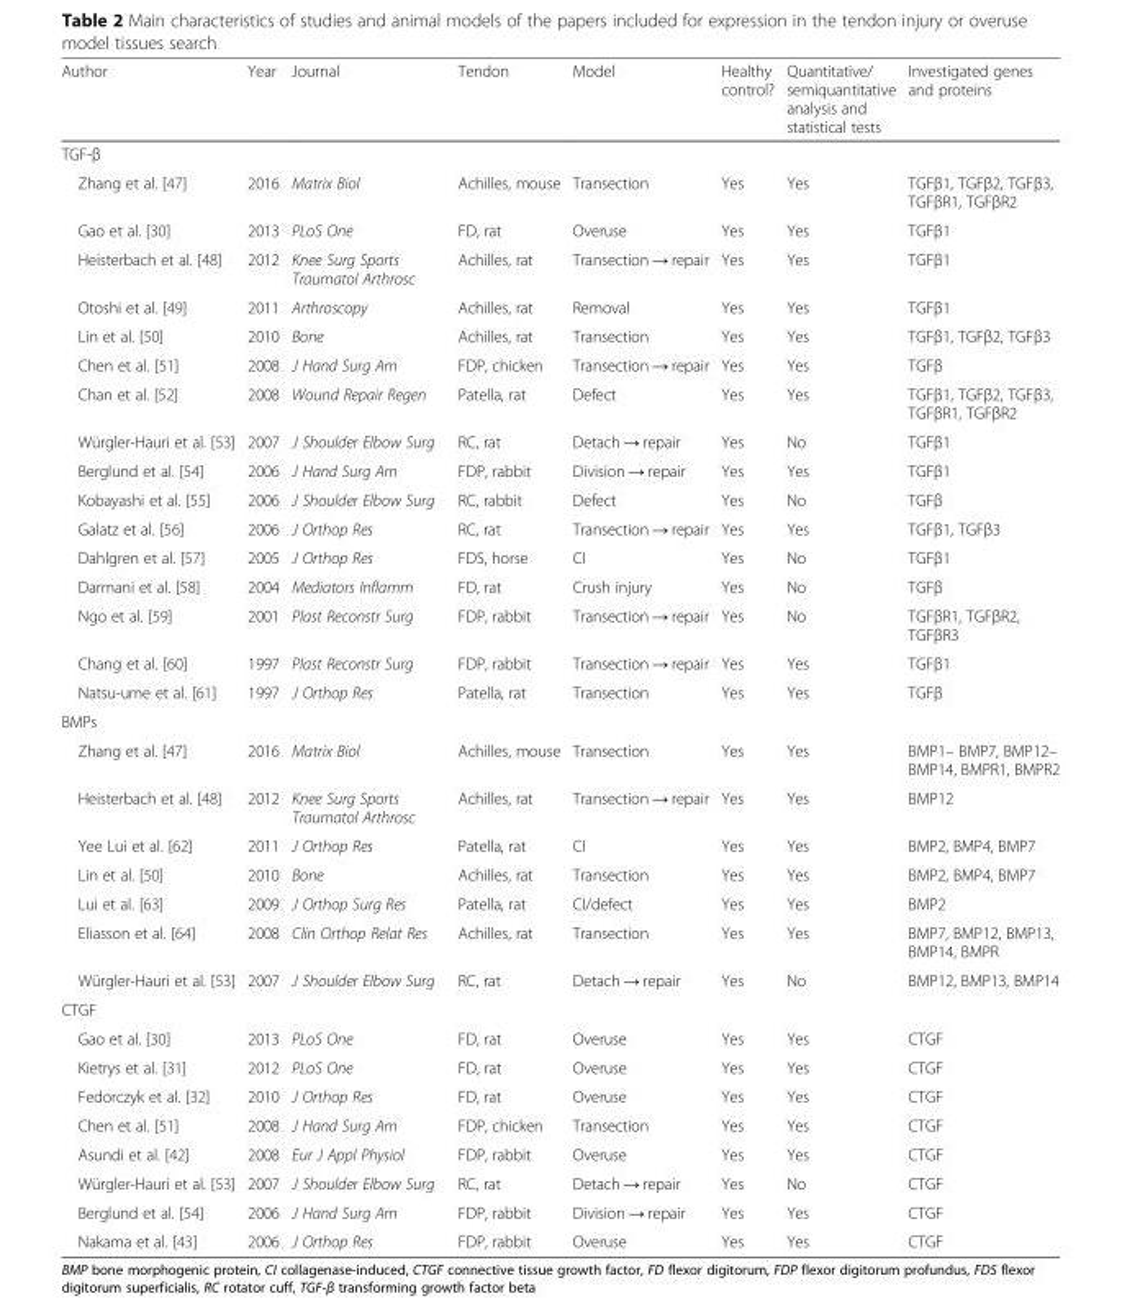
<table><thead><tr><td>Author</td><td>Year</td><td>Journal</td><td>Tendon</td><td>Model</td><td>Healthy control?</td><td>Quantitative/ semiquantitative analysis and statistical tests</td><td>Investigated genes and proteins</td></tr></thead><tbody><tr><td colspan="8">TGF-β</td></tr><tr><td>Zhang et al. [47]</td><td>2016</td><td>Matrix Biol</td><td>Achilles, mouse</td><td>Transection</td><td>Yes</td><td>Yes</td><td>TGFβ1, TGFβ2, TGFβ3, TGFβR1, TGFβR2</td></tr><tr><td>Gao et al. [30]</td><td>2013</td><td>PLoS One</td><td>FD, rat</td><td>Overuse</td><td>Yes</td><td>Yes</td><td>TGFβ1</td></tr><tr><td>Heisterbach et al. [48]</td><td>2012</td><td>Knee Surg Sports Traumatol Arthrosc</td><td>Achilles, rat</td><td>Transection → repair</td><td>Yes</td><td>Yes</td><td>TGFβ1</td></tr><tr><td>Otoshi et al. [49]</td><td>2011</td><td>Arthroscopy</td><td>Achilles, rat</td><td>Removal</td><td>Yes</td><td>Yes</td><td>TGFβ1</td></tr><tr><td>Lin et al. [50]</td><td>2010</td><td>Bone</td><td>Achilles, rat</td><td>Transection</td><td>Yes</td><td>Yes</td><td>TGFβ1, TGFβ2, TGFβ3</td></tr><tr><td>Chen et al. [51]</td><td>2008</td><td>J Hand Surg Am</td><td>FDP, chicken</td><td>Transection → repair</td><td>Yes</td><td>Yes</td><td>TGFβ</td></tr><tr><td>Chan et al. [52]</td><td>2008</td><td>Wound Repair Regen</td><td>Patella, rat</td><td>Defect</td><td>Yes</td><td>Yes</td><td>TGFβ1, TGFβ2, TGFβ3, TGFβR1, TGFβR2</td></tr><tr><td>Würgler-Hauri et al. [53]</td><td>2007</td><td>J Shoulder Elbow Surg</td><td>RC, rat</td><td>Detach → repair</td><td>Yes</td><td>No</td><td>TGFβ1</td></tr><tr><td>Berglund et al. [54]</td><td>2006</td><td>J Hand Surg Am</td><td>FDP, rabbit</td><td>Division → repair</td><td>Yes</td><td>Yes</td><td>TGFβ1</td></tr><tr><td>Kobayashi et al. [55]</td><td>2006</td><td>J Shoulder Elbow Surg</td><td>RC, rabbit</td><td>Defect</td><td>Yes</td><td>No</td><td>TGFβ</td></tr><tr><td>Galatz et al. [56]</td><td>2006</td><td>J Orthop Res</td><td>RC, rat</td><td>Transection → repair</td><td>Yes</td><td>Yes</td><td>TGFβ1, TGFβ3</td></tr><tr><td>Dahlgren et al. [57]</td><td>2005</td><td>J Orthop Res</td><td>FDS, horse</td><td>CI</td><td>Yes</td><td>No</td><td>TGFβ1</td></tr><tr><td>Darmani et al. [58]</td><td>2004</td><td>Mediators Inflamm</td><td>FD, rat</td><td>Crush injury</td><td>Yes</td><td>No</td><td>TGFβ</td></tr><tr><td>Ngo et al. [59]</td><td>2001</td><td>Plast Reconstr Surg</td><td>FDP, rabbit</td><td>Transection → repair</td><td>Yes</td><td>No</td><td>TGFβR1, TGFβR2, TGFβR3</td></tr><tr><td>Chang et al. [60]</td><td>1997</td><td>Plast Reconstr Surg</td><td>FDP, rabbit</td><td>Transection → repair</td><td>Yes</td><td>Yes</td><td>TGFβ1</td></tr><tr><td>Natsu-ume et al. [61]</td><td>1997</td><td>J Orthop Res</td><td>Patella, rat</td><td>Transection</td><td>Yes</td><td>Yes</td><td>TGFβ</td></tr><tr><td colspan="8">BMPs</td></tr><tr><td>Zhang et al. [47]</td><td>2016</td><td>Matrix Biol</td><td>Achilles, mouse</td><td>Transection</td><td>Yes</td><td>Yes</td><td>BMP1– BMP7, BMP12– BMP14, BMPR1, BMPR2</td></tr><tr><td>Heisterbach et al. [48]</td><td>2012</td><td>Knee Surg Sports Traumatol Arthrosc</td><td>Achilles, rat</td><td>Transection → repair</td><td>Yes</td><td>Yes</td><td>BMP12</td></tr><tr><td>Yee Lui et al. [62]</td><td>2011</td><td>J Orthop Res</td><td>Patella, rat</td><td>CI</td><td>Yes</td><td>Yes</td><td>BMP2, BMP4, BMP7</td></tr><tr><td>Lin et al. [50]</td><td>2010</td><td>Bone</td><td>Achilles, rat</td><td>Transection</td><td>Yes</td><td>Yes</td><td>BMP2, BMP4, BMP7</td></tr><tr><td>Lui et al. [63]</td><td>2009</td><td>J Orthop Surg Res</td><td>Patella, rat</td><td>CI/defect</td><td>Yes</td><td>Yes</td><td>BMP2</td></tr><tr><td>Eliasson et al. [64]</td><td>2008</td><td>Clin Orthop Relat Res</td><td>Achilles, rat</td><td>Transection</td><td>Yes</td><td>Yes</td><td>BMP7, BMP12, BMP13, BMP14, BMPR</td></tr><tr><td>Würgler-Hauri et al. [53]</td><td>2007</td><td>J Shoulder Elbow Surg</td><td>RC, rat</td><td>Detach → repair</td><td>Yes</td><td>No</td><td>BMP12, BMP13, BMP14</td></tr><tr><td colspan="8">CTGF</td></tr><tr><td>Gao et al. [30]</td><td>2013</td><td>PLoS One</td><td>FD, rat</td><td>Overuse</td><td>Yes</td><td>Yes</td><td>CTGF</td></tr><tr><td>Kietrys et al. [31]</td><td>2012</td><td>PLoS One</td><td>FD, rat</td><td>Overuse</td><td>Yes</td><td>Yes</td><td>CTGF</td></tr><tr><td>Fedorczyk et al. [32]</td><td>2010</td><td>J Orthop Res</td><td>FD, rat</td><td>Overuse</td><td>Yes</td><td>Yes</td><td>CTGF</td></tr><tr><td>Chen et al. [51]</td><td>2008</td><td>J Hand Surg Am</td><td>FDP, chicken</td><td>Transection</td><td>Yes</td><td>Yes</td><td>CTGF</td></tr><tr><td>Asundi et al. [42]</td><td>2008</td><td>Eur J Appl Physiol</td><td>FDP, rabbit</td><td>Overuse</td><td>Yes</td><td>Yes</td><td>CTGF</td></tr><tr><td>Würgler-Hauri et al. [53]</td><td>2007</td><td>J Shoulder Elbow Surg</td><td>RC, rat</td><td>Detach → repair</td><td>Yes</td><td>No</td><td>CTGF</td></tr><tr><td>Berglund et al. [54]</td><td>2006</td><td>J Hand Surg Am</td><td>FDP, rabbit</td><td>Division → repair</td><td>Yes</td><td>Yes</td><td>CTGF</td></tr><tr><td>Nakama et al. [43]</td><td>2006</td><td>J Orthop Res</td><td>FDP, rabbit</td><td>Overuse</td><td>Yes</td><td>Yes</td><td>CTGF</td></tr></tbody></table>